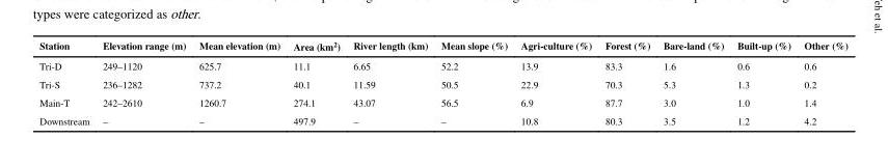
<table><thead><tr><td>Station</td><td>Elevation range (m)</td><td>Mean elevation (m)</td><td>Area (km<sup>2</sup>)</td><td>River length (km)</td><td>Mean slope (%)</td><td>Agri-culture (%)</td><td>Forest (%)</td><td>Bare-land (%)</td><td>Built-up (%)</td><td>Other (%)</td></tr></thead><tbody><tr><td>Tri-D</td><td>249–1120</td><td>625.7</td><td>11.1</td><td>6.65</td><td>52.2</td><td>13.9</td><td>83.3</td><td>1.6</td><td>0.6</td><td>0.6</td></tr><tr><td>Tri-S</td><td>236–1282</td><td>737.2</td><td>40.1</td><td>11.59</td><td>50.5</td><td>22.9</td><td>70.3</td><td>5.3</td><td>1.3</td><td>0.2</td></tr><tr><td>Main-T</td><td>242–2610</td><td>1260.7</td><td>274.1</td><td>43.07</td><td>56.5</td><td>6.9</td><td>87.7</td><td>3.0</td><td>1.0</td><td>1.4</td></tr><tr><td>Downstream</td><td>–</td><td>–</td><td>497.9</td><td>–</td><td>–</td><td>10.8</td><td>80.3</td><td>3.5</td><td>1.2</td><td>4.2</td></tr></tbody></table>